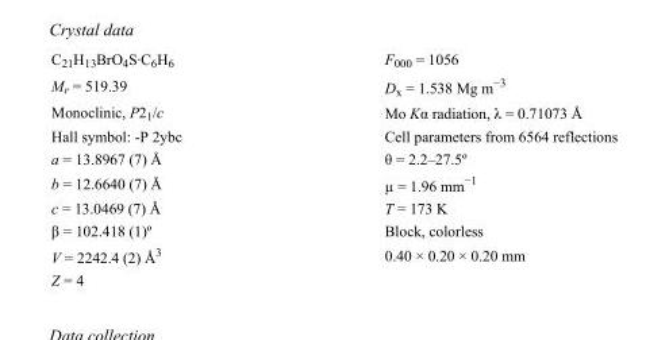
<table><tbody><tr><td>C<sub>21</sub>H<sub>13</sub>BrO<sub>4</sub>S·C<sub>6</sub>H<sub>6</sub></td><td>F000 = 1056</td></tr><tr><td>M<sub>r</sub> = 519.39</td><td>D<sub>x</sub> = 1.538 Mg m<sup>−3</sup></td></tr><tr><td>Monoclinic, P2<sub>1</sub>/c</td><td>Mo Kα radiation, λ = 0.71073 Å</td></tr><tr><td>Hall symbol: -P 2ybc</td><td>Cell parameters from 6564 reflections</td></tr><tr><td>a = 13.8967 (7) Å</td><td>θ = 2.2–27.5º</td></tr><tr><td>b = 12.6640 (7) Å</td><td>µ = 1.96 mm<sup>−1</sup></td></tr><tr><td>c = 13.0469 (7) Å</td><td>T = 173 K</td></tr><tr><td>β = 102.418 (1)º</td><td>Block, colorless</td></tr><tr><td>V = 2242.4 (2) Å<sup>3</sup></td><td>0.40 × 0.20 × 0.20 mm</td></tr><tr><td>Z = 4</td><td></td></tr></tbody></table>